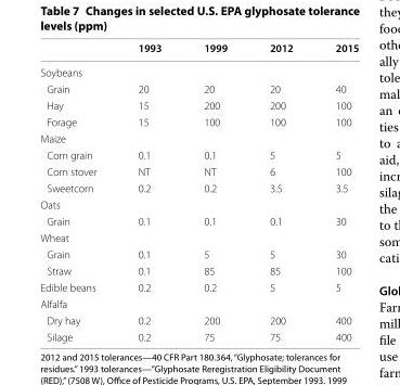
<table><thead><tr><td></td><td>1993</td><td>1999</td><td>2012</td><td>2015</td></tr></thead><tbody><tr><td colspan="5">Soybeans</td></tr><tr><td>Grain</td><td>20</td><td>20</td><td>20</td><td>40</td></tr><tr><td>Hay</td><td>15</td><td>200</td><td>200</td><td>100</td></tr><tr><td>Forage</td><td>15</td><td>100</td><td>100</td><td>100</td></tr><tr><td colspan="5">Maize</td></tr><tr><td>Corn grain</td><td>0.1</td><td>0.1</td><td>5</td><td>5</td></tr><tr><td>Corn stover</td><td>NT</td><td>NT</td><td>6</td><td>100</td></tr><tr><td>Sweetcorn</td><td>0.2</td><td>0.2</td><td>3.5</td><td>3.5</td></tr><tr><td colspan="5">Oats</td></tr><tr><td>Grain</td><td>0.1</td><td>0.1</td><td>0.1</td><td>30</td></tr><tr><td colspan="5">Wheat</td></tr><tr><td>Grain</td><td>0.1</td><td>5</td><td>5</td><td>30</td></tr><tr><td>Straw</td><td>0.1</td><td>85</td><td>85</td><td>100</td></tr><tr><td>Edible beans</td><td>0.2</td><td>0.2</td><td>5</td><td>5</td></tr><tr><td colspan="5">Alfalfa</td></tr><tr><td>Dry hay</td><td>0.2</td><td>200</td><td>200</td><td>400</td></tr><tr><td>Silage</td><td>0.2</td><td>75</td><td>75</td><td>400</td></tr></tbody></table>